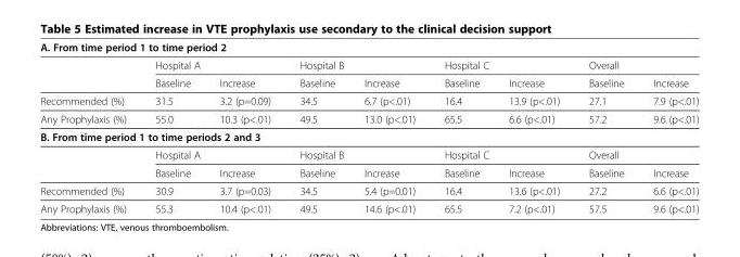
<table><tbody><tr><td colspan="9">A. From time period 1 to time period 2</td></tr><tr><td></td><td colspan="2">Hospital A</td><td colspan="2">Hospital B</td><td colspan="2">Hospital C</td><td colspan="2">Overall</td></tr><tr><td></td><td>Baseline</td><td>Increase</td><td>Baseline</td><td>Increase</td><td>Baseline</td><td>Increase</td><td>Baseline</td><td>Increase</td></tr><tr><td>Recommended (%)</td><td>31.5</td><td>3.2 (p=0.09)</td><td>34.5</td><td>6.7 (p&lt;.01)</td><td>16.4</td><td>13.9 (p&lt;.01)</td><td>27.1</td><td>7.9 (p&lt;.01)</td></tr><tr><td>Any Prophylaxis (%)</td><td>55.0</td><td>10.3 (p&lt;.01)</td><td>49.5</td><td>13.0 (p&lt;.01)</td><td>65.5</td><td>6.6 (p&lt;.01)</td><td>57.2</td><td>9.6 (p&lt;.01)</td></tr><tr><td colspan="9">B. From time period 1 to time periods 2 and 3</td></tr><tr><td></td><td colspan="2">Hospital A</td><td colspan="2">Hospital B</td><td colspan="2">Hospital C</td><td colspan="2">Overall</td></tr><tr><td></td><td>Baseline</td><td>Increase</td><td>Baseline</td><td>Increase</td><td>Baseline</td><td>Increase</td><td>Baseline</td><td>Increase</td></tr><tr><td>Recommended (%)</td><td>30.9</td><td>3.7 (p=0.03)</td><td>34.5</td><td>5.4 (p=0.01)</td><td>16.4</td><td>13.6 (p&lt;.01)</td><td>27.2</td><td>6.6 (p&lt;.01)</td></tr><tr><td>Any Prophylaxis (%)</td><td>55.3</td><td>10.4 (p&lt;.01)</td><td>49.5</td><td>14.6 (p&lt;.01)</td><td>65.5</td><td>7.2 (p&lt;.01)</td><td>57.5</td><td>9.6 (p&lt;.01)</td></tr></tbody></table>